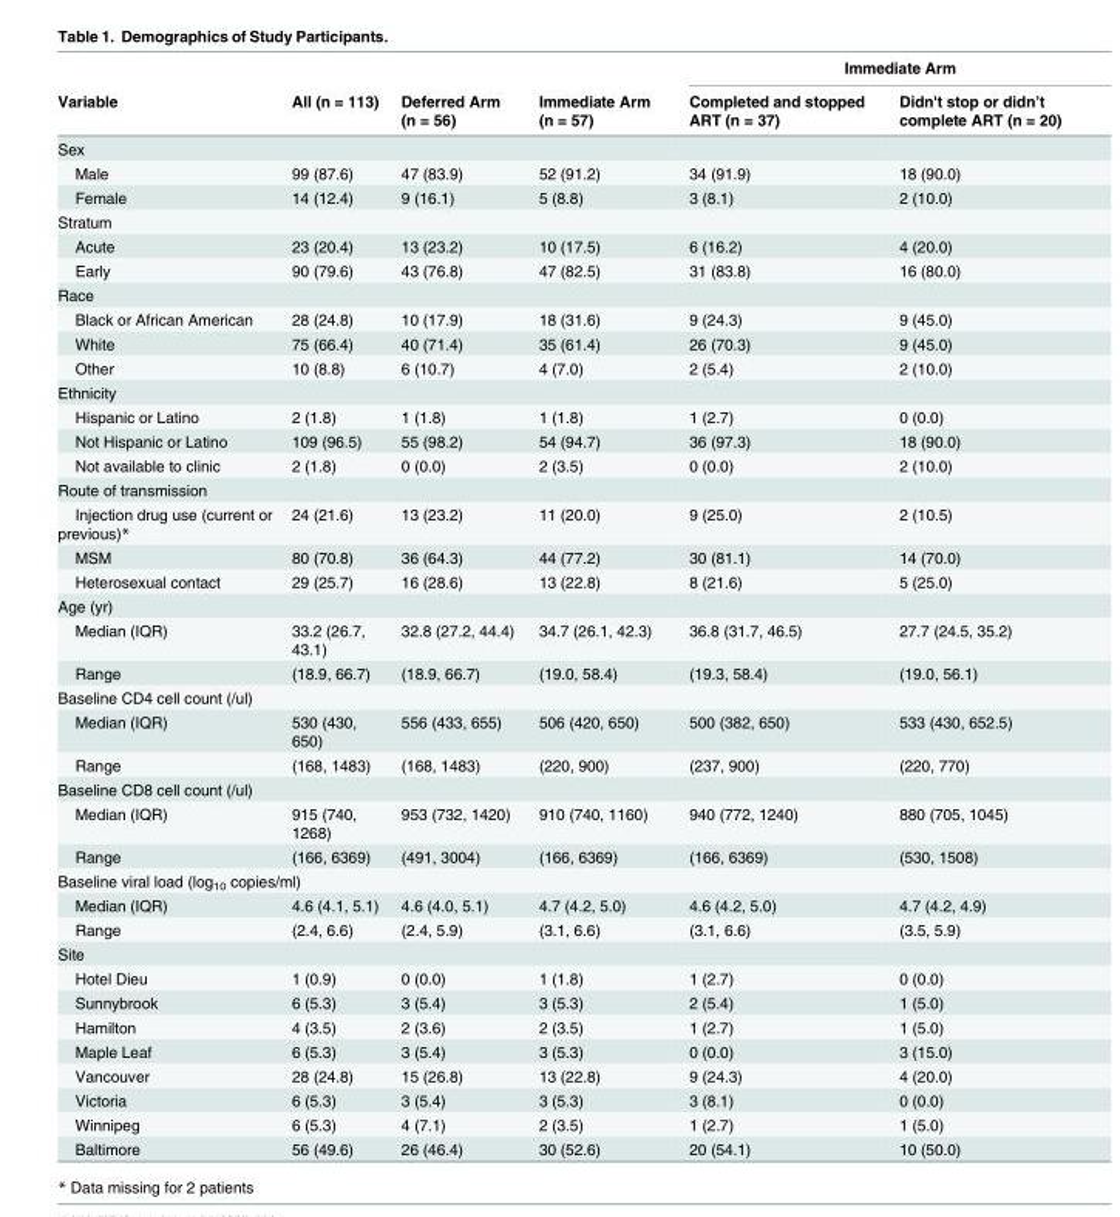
<table><thead><tr><td rowspan="2">Variable</td><td rowspan="2">All (n = 113)</td><td rowspan="2">Deferred Arm (n = 56)</td><td rowspan="2">Immediate Arm (n = 57)</td><td colspan="2">Immediate Arm</td></tr><tr><td>Completed and stopped ART (n = 37)</td><td>Didn&#x27;t stop or didn’t complete ART (n = 20)</td></tr></thead><tbody><tr><td colspan="6">Sex</td></tr><tr><td>Male</td><td>99 (87.6)</td><td>47 (83.9)</td><td>52 (91.2)</td><td>34 (91.9)</td><td>18 (90.0)</td></tr><tr><td>Female</td><td>14 (12.4)</td><td>9 (16.1)</td><td>5 (8.8)</td><td>3 (8.1)</td><td>2 (10.0)</td></tr><tr><td colspan="6">Stratum</td></tr><tr><td>Acute</td><td>23 (20.4)</td><td>13 (23.2)</td><td>10 (17.5)</td><td>6 (16.2)</td><td>4 (20.0)</td></tr><tr><td>Early</td><td>90 (79.6)</td><td>43 (76.8)</td><td>47 (82.5)</td><td>31 (83.8)</td><td>16 (80.0)</td></tr><tr><td colspan="6">Race</td></tr><tr><td>Black or African American</td><td>28 (24.8)</td><td>10 (17.9)</td><td>18 (31.6)</td><td>9 (24.3)</td><td>9 (45.0)</td></tr><tr><td>White</td><td>75 (66.4)</td><td>40 (71.4)</td><td>35 (61.4)</td><td>26 (70.3)</td><td>9 (45.0)</td></tr><tr><td>Other</td><td>10 (8.8)</td><td>6 (10.7)</td><td>4 (7.0)</td><td>2 (5.4)</td><td>2 (10.0)</td></tr><tr><td colspan="6">Ethnicity</td></tr><tr><td>Hispanic or Latino</td><td>2 (1.8)</td><td>1 (1.8)</td><td>1 (1.8)</td><td>1 (2.7)</td><td>0 (0.0)</td></tr><tr><td>Not Hispanic or Latino</td><td>109 (96.5)</td><td>55 (98.2)</td><td>54 (94.7)</td><td>36 (97.3)</td><td>18 (90.0)</td></tr><tr><td>Not available to clinic</td><td>2 (1.8)</td><td>0 (0.0)</td><td>2 (3.5)</td><td>0 (0.0)</td><td>2 (10.0)</td></tr><tr><td colspan="6">Route of transmission</td></tr><tr><td>Injection drug use (current or previous)*</td><td>24 (21.6)</td><td>13 (23.2)</td><td>11 (20.0)</td><td>9 (25.0)</td><td>2 (10.5)</td></tr><tr><td>MSM</td><td>80 (70.8)</td><td>36 (64.3)</td><td>44 (77.2)</td><td>30 (81.1)</td><td>14 (70.0)</td></tr><tr><td>Heterosexual contact</td><td>29 (25.7)</td><td>16 (28.6)</td><td>13 (22.8)</td><td>8 (21.6)</td><td>5 (25.0)</td></tr><tr><td colspan="6">Age (yr)</td></tr><tr><td>Median (IQR)</td><td>33.2 (26.7, 43.1)</td><td>32.8 (27.2, 44.4)</td><td>34.7 (26.1, 42.3)</td><td>36.8 (31.7, 46.5)</td><td>27.7 (24.5, 35.2)</td></tr><tr><td>Range</td><td>(18.9, 66.7)</td><td>(18.9, 66.7)</td><td>(19.0, 58.4)</td><td>(19.3, 58.4)</td><td>(19.0, 56.1)</td></tr><tr><td colspan="6">Baseline CD4 cell count (/ul)</td></tr><tr><td>Median (IQR)</td><td>530 (430, 650)</td><td>556 (433, 655)</td><td>506 (420, 650)</td><td>500 (382, 650)</td><td>533 (430, 652.5)</td></tr><tr><td>Range</td><td>(168, 1483)</td><td>(168, 1483)</td><td>(220, 900)</td><td>(237, 900)</td><td>(220, 770)</td></tr><tr><td colspan="6">Baseline CD8 cell count (/ul)</td></tr><tr><td>Median (IQR)</td><td>915 (740, 1268)</td><td>953 (732, 1420)</td><td>910 (740, 1160)</td><td>940 (772, 1240)</td><td>880 (705, 1045)</td></tr><tr><td>Range</td><td>(166, 6369)</td><td>(491, 3004)</td><td>(166, 6369)</td><td>(166, 6369)</td><td>(530, 1508)</td></tr><tr><td colspan="6">Baseline viral load (log<sub>10</sub> copies/ml)</td></tr><tr><td>Median (IQR)</td><td>4.6 (4.1, 5.1)</td><td>4.6 (4.0, 5.1)</td><td>4.7 (4.2, 5.0)</td><td>4.6 (4.2, 5.0)</td><td>4.7 (4.2, 4.9)</td></tr><tr><td>Range</td><td>(2.4, 6.6)</td><td>(2.4, 5.9)</td><td>(3.1, 6.6)</td><td>(3.1, 6.6)</td><td>(3.5, 5.9)</td></tr><tr><td colspan="6">Site</td></tr><tr><td>Hotel Dieu</td><td>1 (0.9)</td><td>0 (0.0)</td><td>1 (1.8)</td><td>1 (2.7)</td><td>0 (0.0)</td></tr><tr><td>Sunnybrook</td><td>6 (5.3)</td><td>3 (5.4)</td><td>3 (5.3)</td><td>2 (5.4)</td><td>1 (5.0)</td></tr><tr><td>Hamilton</td><td>4 (3.5)</td><td>2 (3.6)</td><td>2 (3.5)</td><td>1 (2.7)</td><td>1 (5.0)</td></tr><tr><td>Maple Leaf</td><td>6 (5.3)</td><td>3 (5.4)</td><td>3 (5.3)</td><td>0 (0.0)</td><td>3 (15.0)</td></tr><tr><td>Vancouver</td><td>28 (24.8)</td><td>15 (26.8)</td><td>13 (22.8)</td><td>9 (24.3)</td><td>4 (20.0)</td></tr><tr><td>Victoria</td><td>6 (5.3)</td><td>3 (5.4)</td><td>3 (5.3)</td><td>3 (8.1)</td><td>0 (0.0)</td></tr><tr><td>Winnipeg</td><td>6 (5.3)</td><td>4 (7.1)</td><td>2 (3.5)</td><td>1 (2.7)</td><td>1 (5.0)</td></tr><tr><td>Baltimore</td><td>56 (49.6)</td><td>26 (46.4)</td><td>30 (52.6)</td><td>20 (54.1)</td><td>10 (50.0)</td></tr></tbody></table>